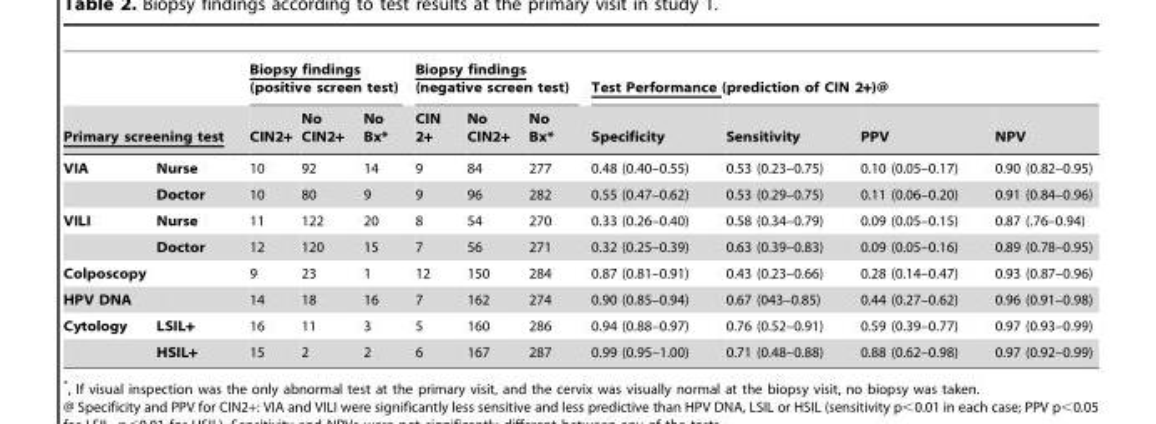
<table><thead><tr><td></td><td></td><td colspan="3">Biopsy findings (positive screen test)</td><td colspan="3">Biopsy findings (negative screen test)</td><td colspan="4">Test Performance (prediction of CIN 2+)@</td></tr><tr><td colspan="2">Primary screening test</td><td>CIN2+</td><td>No CIN2+</td><td>No Bx*</td><td>CIN 2+</td><td>No CIN2+</td><td>No Bx*</td><td>Specificity</td><td>Sensitivity</td><td>PPV</td><td>NPV</td></tr></thead><tbody><tr><td rowspan="2">VIA</td><td>Nurse</td><td>10</td><td>92</td><td>14</td><td>9</td><td>84</td><td>277</td><td>0.48 (0.40–0.55)</td><td>0.53 (0.23–0.75)</td><td>0.10 (0.05–0.17)</td><td>0.90 (0.82–0.95)</td></tr><tr><td>Doctor</td><td>10</td><td>80</td><td>9</td><td>9</td><td>96</td><td>282</td><td>0.55 (0.47–0.62)</td><td>0.53 (0.29–0.75)</td><td>0.11 (0.06–0.20)</td><td>0.91 (0.84–0.96)</td></tr><tr><td rowspan="2">VILI</td><td>Nurse</td><td>11</td><td>122</td><td>20</td><td>8</td><td>54</td><td>270</td><td>0.33 (0.26–0.40)</td><td>0.58 (0.34–0.79)</td><td>0.09 (0.05–0.15)</td><td>0.87 (.76–0.94)</td></tr><tr><td>Doctor</td><td>12</td><td>120</td><td>15</td><td>7</td><td>56</td><td>271</td><td>0.32 (0.25–0.39)</td><td>0.63 (0.39–0.83)</td><td>0.09 (0.05–0.16)</td><td>0.89 (0.78–0.95)</td></tr><tr><td>Colposcopy</td><td></td><td>9</td><td>23</td><td>1</td><td>12</td><td>150</td><td>284</td><td>0.87 (0.81–0.91)</td><td>0.43 (0.23–0.66)</td><td>0.28 (0.14–0.47)</td><td>0.93 (0.87–0.96)</td></tr><tr><td>HPV DNA</td><td></td><td>14</td><td>18</td><td>16</td><td>7</td><td>162</td><td>274</td><td>0.90 (0.85–0.94)</td><td>0.67 (043–0.85)</td><td>0.44 (0.27–0.62)</td><td>0.96 (0.91–0.98)</td></tr><tr><td rowspan="2">Cytology</td><td>LSIL+</td><td>16</td><td>11</td><td>3</td><td>5</td><td>160</td><td>286</td><td>0.94 (0.88–0.97)</td><td>0.76 (0.52–0.91)</td><td>0.59 (0.39–0.77)</td><td>0.97 (0.93–0.99)</td></tr><tr><td>HSIL+</td><td>15</td><td>2</td><td>2</td><td>6</td><td>167</td><td>287</td><td>0.99 (0.95–1.00)</td><td>0.71 (0.48–0.88)</td><td>0.88 (0.62–0.98)</td><td>0.97 (0.92–0.99)</td></tr></tbody></table>